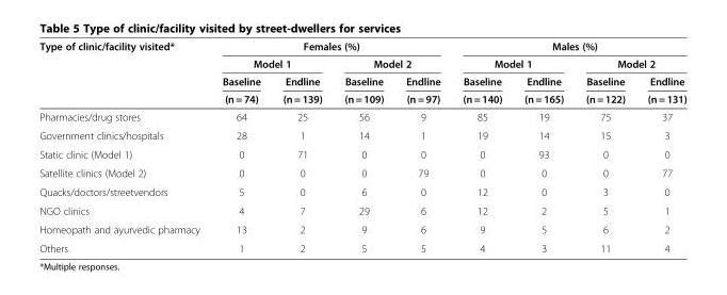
<table><thead><tr><td rowspan="4">Type of clinic/facility visited*</td><td colspan="4">Females (%)</td><td colspan="4">Males (%)</td></tr><tr><td colspan="2">Model 1</td><td colspan="2">Model 2</td><td colspan="2">Model 1</td><td colspan="2">Model 2</td></tr><tr><td rowspan="2">Baseline (n = 74)</td><td rowspan="2">Endline (n = 139)</td><td rowspan="2">Baseline (n = 109)</td><td rowspan="2">Endline (n = 97)</td><td rowspan="2">Baseline (n = 140)</td><td rowspan="2">Endline (n = 165)</td><td rowspan="2">Baseline (n = 122)</td><td rowspan="2">Endline (n = 131)</td></tr><tr></tr></thead><tbody><tr><td>Pharmacies/drug stores</td><td>64</td><td>25</td><td>56</td><td>9</td><td>85</td><td>19</td><td>75</td><td>37</td></tr><tr><td>Government clinics/hospitals</td><td>28</td><td>1</td><td>14</td><td>1</td><td>19</td><td>14</td><td>15</td><td>3</td></tr><tr><td>Static clinic (Model 1)</td><td>0</td><td>71</td><td>0</td><td>0</td><td>0</td><td>93</td><td>0</td><td>0</td></tr><tr><td>Satellite clinics (Model 2)</td><td>0</td><td>0</td><td>0</td><td>79</td><td>0</td><td>0</td><td>0</td><td>77</td></tr><tr><td>Quacks/doctors/streetvendors</td><td>5</td><td>0</td><td>6</td><td>0</td><td>12</td><td>0</td><td>3</td><td>0</td></tr><tr><td>NGO clinics</td><td>4</td><td>7</td><td>29</td><td>6</td><td>12</td><td>2</td><td>5</td><td>1</td></tr><tr><td>Homeopath and ayurvedic pharmacy</td><td>13</td><td>2</td><td>9</td><td>6</td><td>9</td><td>5</td><td>6</td><td>2</td></tr><tr><td>Others</td><td>1</td><td>2</td><td>5</td><td>5</td><td>4</td><td>3</td><td>11</td><td>4</td></tr></tbody></table>